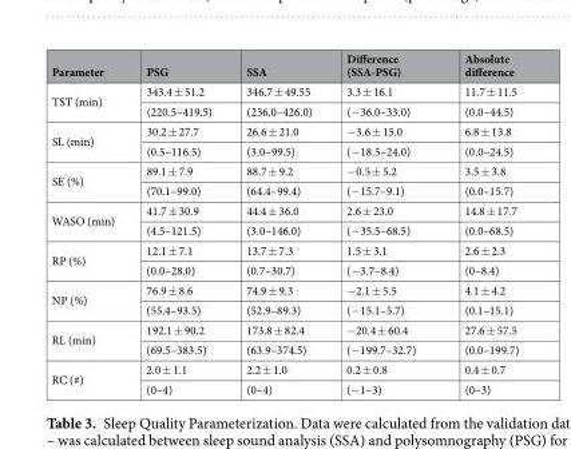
<table><thead><tr><td>Parameter</td><td>PSG</td><td>SSA</td><td>Difference (SSA-PSG)</td><td>Absolute difference</td></tr></thead><tbody><tr><td rowspan="2">TST (min)</td><td>343.4 ± 51.2</td><td>346.7 ± 49.55</td><td>3.3 ± 16.1</td><td>11.7 ± 11.5</td></tr><tr><td>(220.5–419.5)</td><td>(236.0–426.0)</td><td>(−36.0–33.0)</td><td>(0.0–44.5)</td></tr><tr><td rowspan="2">SL (min)</td><td>30.2 ± 27.7</td><td>26.6 ± 21.0</td><td>−3.6 ± 15.0</td><td>6.8 ± 13.8</td></tr><tr><td>(0.5–116.5)</td><td>(3.0–99.5)</td><td>(−18.5–24.0)</td><td>(0.0–24.5)</td></tr><tr><td rowspan="2">SE (%)</td><td>89.1 ± 7.9</td><td>88.7 ± 9.2</td><td>−0.5 ± 5.2</td><td>3.5 ± 3.8</td></tr><tr><td>(70.1–99.0)</td><td>(64.4–99.4)</td><td>(−15.7–9.1)</td><td>(0.0–15.7)</td></tr><tr><td rowspan="2">WASO (min)</td><td>41.7 ± 30.9</td><td>44.4 ± 36.0</td><td>2.6 ± 23.0</td><td>14.8 ± 17.7</td></tr><tr><td>(4.5–121.5)</td><td>(3.0–146.0)</td><td>(−35.5–68.5)</td><td>(0.0–68.5)</td></tr><tr><td rowspan="2">RP (%)</td><td>12.1 ± 7.1</td><td>13.7 ± 7.3</td><td>1.5 ± 3.1</td><td>2.6 ± 2.3</td></tr><tr><td>(0.0–28.0)</td><td>(0.7–30.7)</td><td>(−3.7–8.4)</td><td>(0–8.4)</td></tr><tr><td rowspan="2">NP (%)</td><td>76.9 ± 8.6</td><td>74.9 ± 9.3</td><td>−2.1 ± 5.5</td><td>4.1 ± 4.2</td></tr><tr><td>(55.4–93.5)</td><td>(52.9–89.3)</td><td>(−15.1–5.7)</td><td>(0.1–15.1)</td></tr><tr><td rowspan="2">RL (min)</td><td>192.1 ± 90.2</td><td>173.8 ± 82.4</td><td>−20.4 ± 60.4</td><td>27.6 ± 57.5</td></tr><tr><td>(69.5–383.5)</td><td>(63.9–374.5)</td><td>(−199.7–32.7)</td><td>(0.0–199.7)</td></tr><tr><td rowspan="2">RC (#)</td><td>2.0 ± 1.1</td><td>2.2 ± 1.0</td><td>0.2 ± 0.8</td><td>0.4 ± 0.7</td></tr><tr><td>(0–4)</td><td>(0–4)</td><td>(−1–3)</td><td>(0–3)</td></tr></tbody></table>